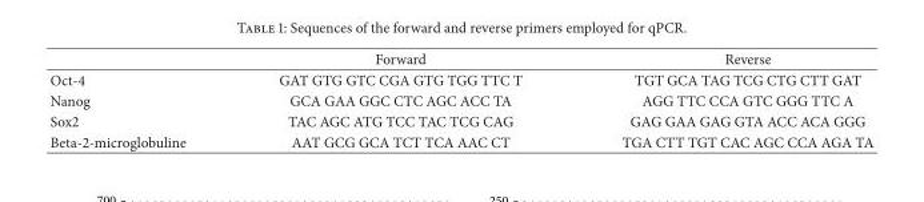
<table><thead><tr><td></td><td>Forward</td><td>Reverse</td></tr></thead><tbody><tr><td>Oct-4</td><td>GAT GTG GTC CGA GTG TGG TTC T</td><td>TGT GCA TAG TCG CTG CTT GAT</td></tr><tr><td>Nanog</td><td>GCA GAA GGC CTC AGC ACC TA</td><td>AGG TTC CCA GTC GGG TTC A</td></tr><tr><td>Sox2</td><td>TAC AGC ATG TCC TAC TCG CAG</td><td>GAG GAA GAG GTA ACC ACA GGG</td></tr><tr><td>Beta-2-microglobuline</td><td>AAT GCG GCA TCT TCA AAC CT</td><td>TGA CTT TGT CAC AGC CCA AGA TA</td></tr></tbody></table>